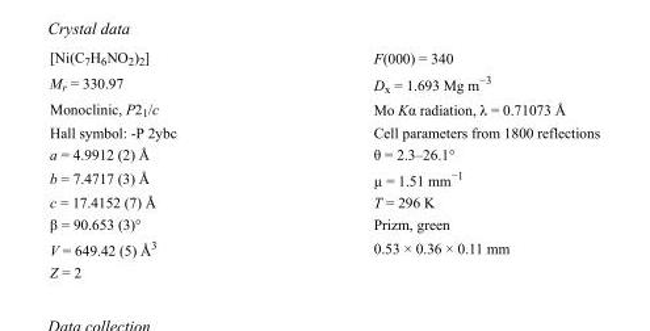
<table><tbody><tr><td>[Ni(C<sub>7</sub>H<sub>6</sub>NO<sub>2</sub>)<sub>2</sub>]</td><td>F(000) = 340</td></tr><tr><td>M<sub>r</sub> = 330.97</td><td>D<sub>x</sub> = 1.693 Mg m<sup>−3</sup></td></tr><tr><td>Monoclinic, P2<sub>1</sub>/c</td><td>Mo Kα radiation, λ = 0.71073 Å</td></tr><tr><td>Hall symbol: -P 2ybc</td><td>Cell parameters from 1800 reflections</td></tr><tr><td>a = 4.9912 (2) Å</td><td>θ = 2.3–26.1°</td></tr><tr><td>b = 7.4717 (3) Å</td><td>µ = 1.51 mm<sup>−1</sup></td></tr><tr><td>c = 17.4152 (7) Å</td><td>T = 296 K</td></tr><tr><td>β = 90.653 (3)°</td><td>Prizm, green</td></tr><tr><td>V = 649.42 (5) Å<sup>3</sup></td><td>0.53 × 0.36 × 0.11 mm</td></tr><tr><td>Z = 2</td><td></td></tr></tbody></table>